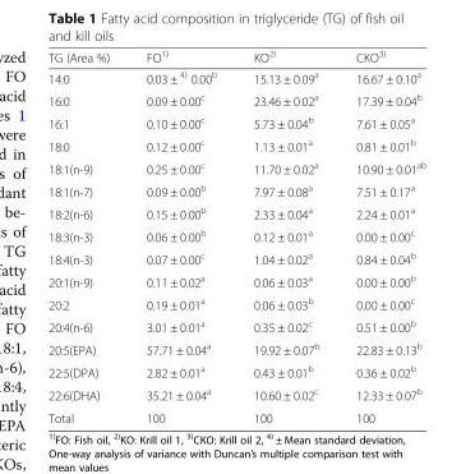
<table><thead><tr><td>TG (Area %)</td><td>FO<sup>1)</sup></td><td>KO<sup>2)</sup></td><td>CKO<sup>3)</sup></td></tr></thead><tbody><tr><td>14:0</td><td>0.03 ± <sup>4)</sup> 0.00<sup>b</sup></td><td>15.13 ± 0.09<sup>a</sup></td><td>16.67 ± 0.10<sup>a</sup></td></tr><tr><td>16:0</td><td>0.09 ± 0.00<sup>c</sup></td><td>23.46 ± 0.02<sup>a</sup></td><td>17.39 ± 0.04<sup>b</sup></td></tr><tr><td>16:1</td><td>0.10 ± 0.00<sup>c</sup></td><td>5.73 ± 0.04<sup>b</sup></td><td>7.61 ± 0.05<sup>a</sup></td></tr><tr><td>18:0</td><td>0.12 ± 0.00<sup>c</sup></td><td>1.13 ± 0.01<sup>a</sup></td><td>0.81 ± 0.01<sup>b</sup></td></tr><tr><td>18:1(n-9)</td><td>0.25 ± 0.00<sup>c</sup></td><td>11.70 ± 0.02<sup>a</sup></td><td>10.90 ± 0.01<sup>ab</sup></td></tr><tr><td>18:1(n-7)</td><td>0.09 ± 0.00<sup>b</sup></td><td>7.97 ± 0.08<sup>a</sup></td><td>7.51 ± 0.17<sup>a</sup></td></tr><tr><td>18:2(n-6)</td><td>0.15 ± 0.00<sup>b</sup></td><td>2.33 ± 0.04<sup>a</sup></td><td>2.24 ± 0.01<sup>a</sup></td></tr><tr><td>18:3(n-3)</td><td>0.06 ± 0.00<sup>b</sup></td><td>0.12 ± 0.01<sup>a</sup></td><td>0.00 ± 0.00<sup>c</sup></td></tr><tr><td>18:4(n-3)</td><td>0.07 ± 0.00<sup>c</sup></td><td>1.04 ± 0.02<sup>a</sup></td><td>0.84 ± 0.04<sup>b</sup></td></tr><tr><td>20:1(n-9)</td><td>0.11 ± 0.02<sup>a</sup></td><td>0.06 ± 0.03<sup>a</sup></td><td>0.00 ± 0.00<sup>b</sup></td></tr><tr><td>20:2</td><td>0.19 ± 0.01<sup>a</sup></td><td>0.06 ± 0.03<sup>b</sup></td><td>0.00 ± 0.00<sup>c</sup></td></tr><tr><td>20:4(n-6)</td><td>3.01 ± 0.01<sup>a</sup></td><td>0.35 ± 0.02<sup>c</sup></td><td>0.51 ± 0.00<sup>b</sup></td></tr><tr><td>20:5(EPA)</td><td>57.71 ± 0.04<sup>a</sup></td><td>19.92 ± 0.07<sup>b</sup></td><td>22.83 ± 0.13<sup>b</sup></td></tr><tr><td>22:5(DPA)</td><td>2.82 ± 0.01<sup>a</sup></td><td>0.43 ± 0.01<sup>b</sup></td><td>0.36 ± 0.02<sup>b</sup></td></tr><tr><td>22:6(DHA)</td><td>35.21 ± 0.04<sup>a</sup></td><td>10.60 ± 0.02<sup>c</sup></td><td>12.33 ± 0.07<sup>b</sup></td></tr><tr><td>Total</td><td>100</td><td>100</td><td>100</td></tr></tbody></table>